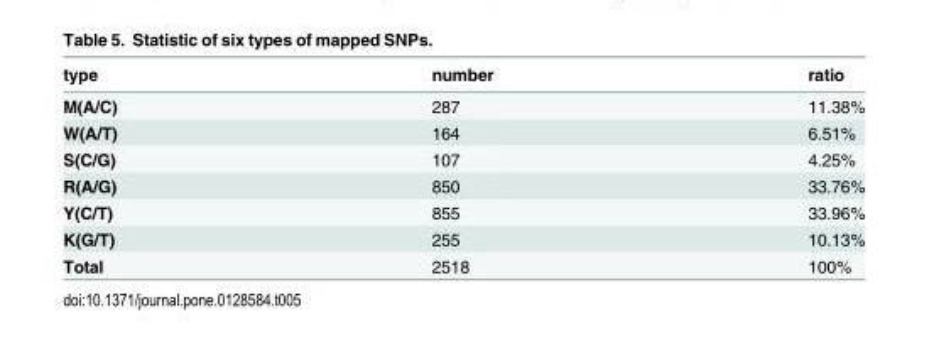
<table><thead><tr><td>type</td><td>number</td><td>ratio</td></tr></thead><tbody><tr><td>M(A/C)</td><td>287</td><td>11.38%</td></tr><tr><td>W(A/T)</td><td>164</td><td>6.51%</td></tr><tr><td>S(C/G)</td><td>107</td><td>4.25%</td></tr><tr><td>R(A/G)</td><td>850</td><td>33.76%</td></tr><tr><td>Y(C/T)</td><td>855</td><td>33.96%</td></tr><tr><td>K(G/T)</td><td>255</td><td>10.13%</td></tr><tr><td>Total</td><td>2518</td><td>100%</td></tr></tbody></table>